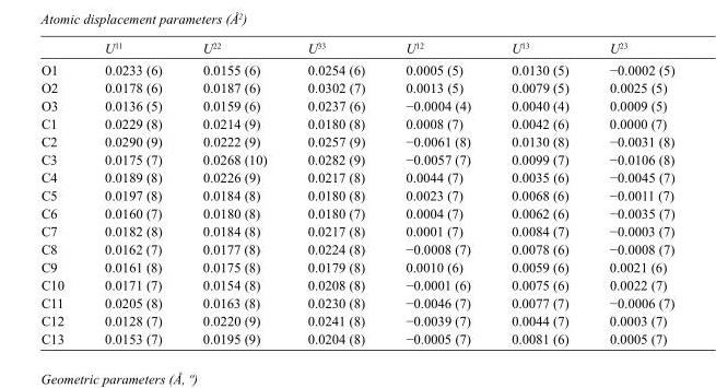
<table><thead><tr><td></td><td>U<sup>11</sup></td><td>U<sup>22</sup></td><td>U<sup>33</sup></td><td>U<sup>12</sup></td><td>U<sup>13</sup></td><td>U<sup>23</sup></td></tr></thead><tbody><tr><td>O1</td><td>0.0233 (6)</td><td>0.0155 (6)</td><td>0.0254 (6)</td><td>0.0005 (5)</td><td>0.0130 (5)</td><td>−0.0002 (5)</td></tr><tr><td>O2</td><td>0.0178 (6)</td><td>0.0187 (6)</td><td>0.0302 (7)</td><td>0.0013 (5)</td><td>0.0079 (5)</td><td>0.0025 (5)</td></tr><tr><td>O3</td><td>0.0136 (5)</td><td>0.0159 (6)</td><td>0.0237 (6)</td><td>−0.0004 (4)</td><td>0.0040 (4)</td><td>0.0009 (5)</td></tr><tr><td>C1</td><td>0.0229 (8)</td><td>0.0214 (9)</td><td>0.0180 (8)</td><td>0.0008 (7)</td><td>0.0042 (6)</td><td>0.0000 (7)</td></tr><tr><td>C2</td><td>0.0290 (9)</td><td>0.0222 (9)</td><td>0.0257 (9)</td><td>−0.0061 (8)</td><td>0.0130 (8)</td><td>−0.0031 (8)</td></tr><tr><td>C3</td><td>0.0175 (7)</td><td>0.0268 (10)</td><td>0.0282 (9)</td><td>−0.0057 (7)</td><td>0.0099 (7)</td><td>−0.0106 (8)</td></tr><tr><td>C4</td><td>0.0189 (8)</td><td>0.0226 (9)</td><td>0.0217 (8)</td><td>0.0044 (7)</td><td>0.0035 (6)</td><td>−0.0045 (7)</td></tr><tr><td>C5</td><td>0.0197 (8)</td><td>0.0184 (8)</td><td>0.0180 (8)</td><td>0.0023 (7)</td><td>0.0068 (6)</td><td>−0.0011 (7)</td></tr><tr><td>C6</td><td>0.0160 (7)</td><td>0.0180 (8)</td><td>0.0180 (7)</td><td>0.0004 (7)</td><td>0.0062 (6)</td><td>−0.0035 (7)</td></tr><tr><td>C7</td><td>0.0182 (8)</td><td>0.0184 (8)</td><td>0.0217 (8)</td><td>0.0001 (7)</td><td>0.0084 (7)</td><td>−0.0003 (7)</td></tr><tr><td>C8</td><td>0.0162 (7)</td><td>0.0177 (8)</td><td>0.0224 (8)</td><td>−0.0008 (7)</td><td>0.0078 (6)</td><td>−0.0008 (7)</td></tr><tr><td>C9</td><td>0.0161 (8)</td><td>0.0175 (8)</td><td>0.0179 (8)</td><td>0.0010 (6)</td><td>0.0059 (6)</td><td>0.0021 (6)</td></tr><tr><td>C10</td><td>0.0171 (7)</td><td>0.0154 (8)</td><td>0.0208 (8)</td><td>−0.0001 (6)</td><td>0.0075 (6)</td><td>0.0022 (7)</td></tr><tr><td>C11</td><td>0.0205 (8)</td><td>0.0163 (8)</td><td>0.0230 (8)</td><td>−0.0046 (7)</td><td>0.0077 (7)</td><td>−0.0006 (7)</td></tr><tr><td>C12</td><td>0.0128 (7)</td><td>0.0220 (9)</td><td>0.0241 (8)</td><td>−0.0039 (7)</td><td>0.0044 (7)</td><td>0.0003 (7)</td></tr><tr><td>C13</td><td>0.0153 (7)</td><td>0.0195 (9)</td><td>0.0204 (8)</td><td>−0.0005 (7)</td><td>0.0081 (6)</td><td>0.0005 (7)</td></tr></tbody></table>